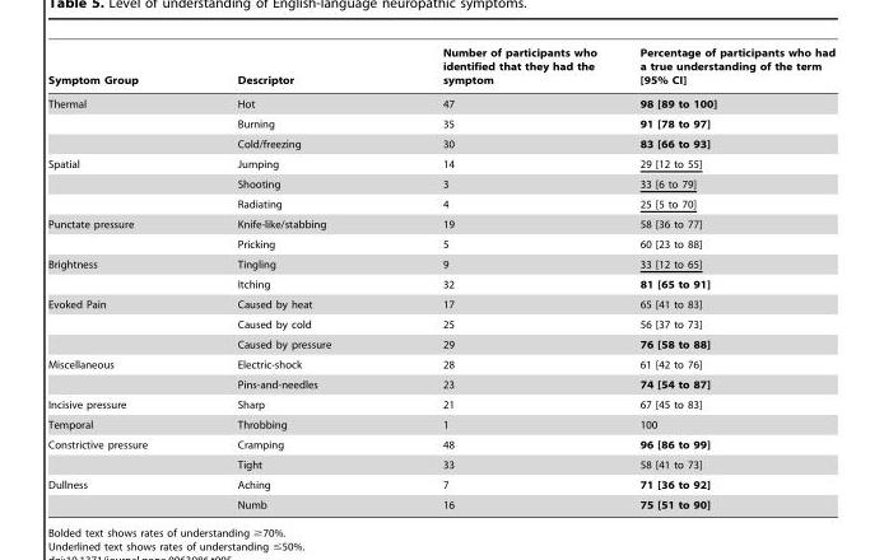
<table><thead><tr><td>Symptom Group</td><td>Descriptor</td><td>Number of participants who identified that they had the symptom</td><td>Percentage of participants who had a true understanding of the term [95% CI]</td></tr></thead><tbody><tr><td rowspan="3">Thermal</td><td>Hot</td><td>47</td><td>98 [89 to 100]</td></tr><tr><td>Burning</td><td>35</td><td>91 [78 to 97]</td></tr><tr><td>Cold/freezing</td><td>30</td><td>83 [66 to 93]</td></tr><tr><td rowspan="3">Spatial</td><td>Jumping</td><td>14</td><td>29 [12 to 55]</td></tr><tr><td>Shooting</td><td>3</td><td>33 [6 to 79]</td></tr><tr><td>Radiating</td><td>4</td><td>25 [5 to 70]</td></tr><tr><td rowspan="2">Punctate pressure</td><td>Knife-like/stabbing</td><td>19</td><td>58 [36 to 77]</td></tr><tr><td>Pricking</td><td>5</td><td>60 [23 to 88]</td></tr><tr><td rowspan="2">Brightness</td><td>Tingling</td><td>9</td><td>33 [12 to 65]</td></tr><tr><td>Itching</td><td>32</td><td>81 [65 to 91]</td></tr><tr><td rowspan="3">Evoked Pain</td><td>Caused by heat</td><td>17</td><td>65 [41 to 83]</td></tr><tr><td>Caused by cold</td><td>25</td><td>56 [37 to 73]</td></tr><tr><td>Caused by pressure</td><td>29</td><td>76 [58 to 88]</td></tr><tr><td rowspan="2">Miscellaneous</td><td>Electric-shock</td><td>28</td><td>61 [42 to 76]</td></tr><tr><td>Pins-and-needles</td><td>23</td><td>74 [54 to 87]</td></tr><tr><td>Incisive pressure</td><td>Sharp</td><td>21</td><td>67 [45 to 83]</td></tr><tr><td>Temporal</td><td>Throbbing</td><td>1</td><td>100</td></tr><tr><td rowspan="2">Constrictive pressure</td><td>Cramping</td><td>48</td><td>96 [86 to 99]</td></tr><tr><td>Tight</td><td>33</td><td>58 [41 to 73]</td></tr><tr><td rowspan="2">Dullness</td><td>Aching</td><td>7</td><td>71 [36 to 92]</td></tr><tr><td>Numb</td><td>16</td><td>75 [51 to 90]</td></tr></tbody></table>